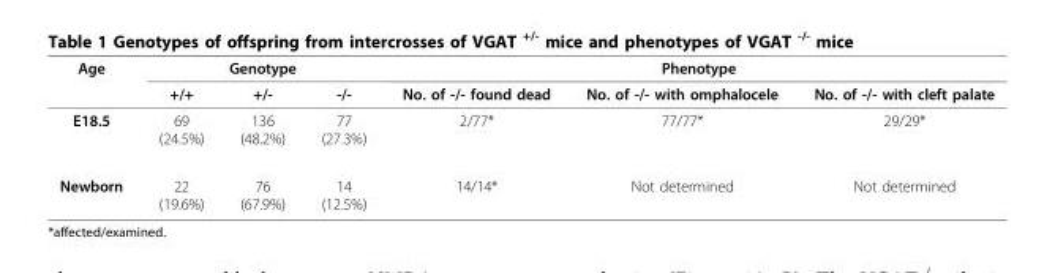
<table><thead><tr><td rowspan="2">Age</td><td colspan="3">Genotype</td><td colspan="3">Phenotype</td></tr><tr><td>+/+</td><td>+/-</td><td>-/-</td><td>No. of -/- found dead</td><td>No. of -/- with omphalocele</td><td>No. of -/- with cleft palate</td></tr></thead><tbody><tr><td>E18.5</td><td>69 (24.5%)</td><td>136 (48.2%)</td><td>77 (27.3%)</td><td>2/77*</td><td>77/77*</td><td>29/29*</td></tr><tr><td>Newborn</td><td>22 (19.6%)</td><td>76 (67.9%)</td><td>14 (12.5%)</td><td>14/14*</td><td>Not determined</td><td>Not determined</td></tr></tbody></table>